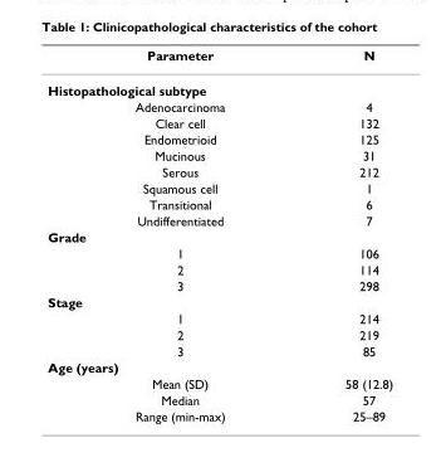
<table><thead><tr><td>Parameter</td><td>N</td></tr></thead><tbody><tr><td colspan="2">Histopathological subtype</td></tr><tr><td>Adenocarcinoma</td><td>4</td></tr><tr><td>Clear cell</td><td>132</td></tr><tr><td>Endometrioid</td><td>125</td></tr><tr><td>Mucinous</td><td>31</td></tr><tr><td>Serous</td><td>212</td></tr><tr><td>Squamous cell</td><td>1</td></tr><tr><td>Transitional</td><td>6</td></tr><tr><td>Undifferentiated</td><td>7</td></tr><tr><td colspan="2">Grade</td></tr><tr><td>1</td><td>106</td></tr><tr><td>2</td><td>114</td></tr><tr><td>3</td><td>298</td></tr><tr><td colspan="2">Stage</td></tr><tr><td>1</td><td>214</td></tr><tr><td>2</td><td>219</td></tr><tr><td>3</td><td>85</td></tr><tr><td colspan="2">Age (years)</td></tr><tr><td>Mean (SD)</td><td>58 (12.8)</td></tr><tr><td>Median</td><td>57</td></tr><tr><td>Range (min-max)</td><td>25–89</td></tr></tbody></table>